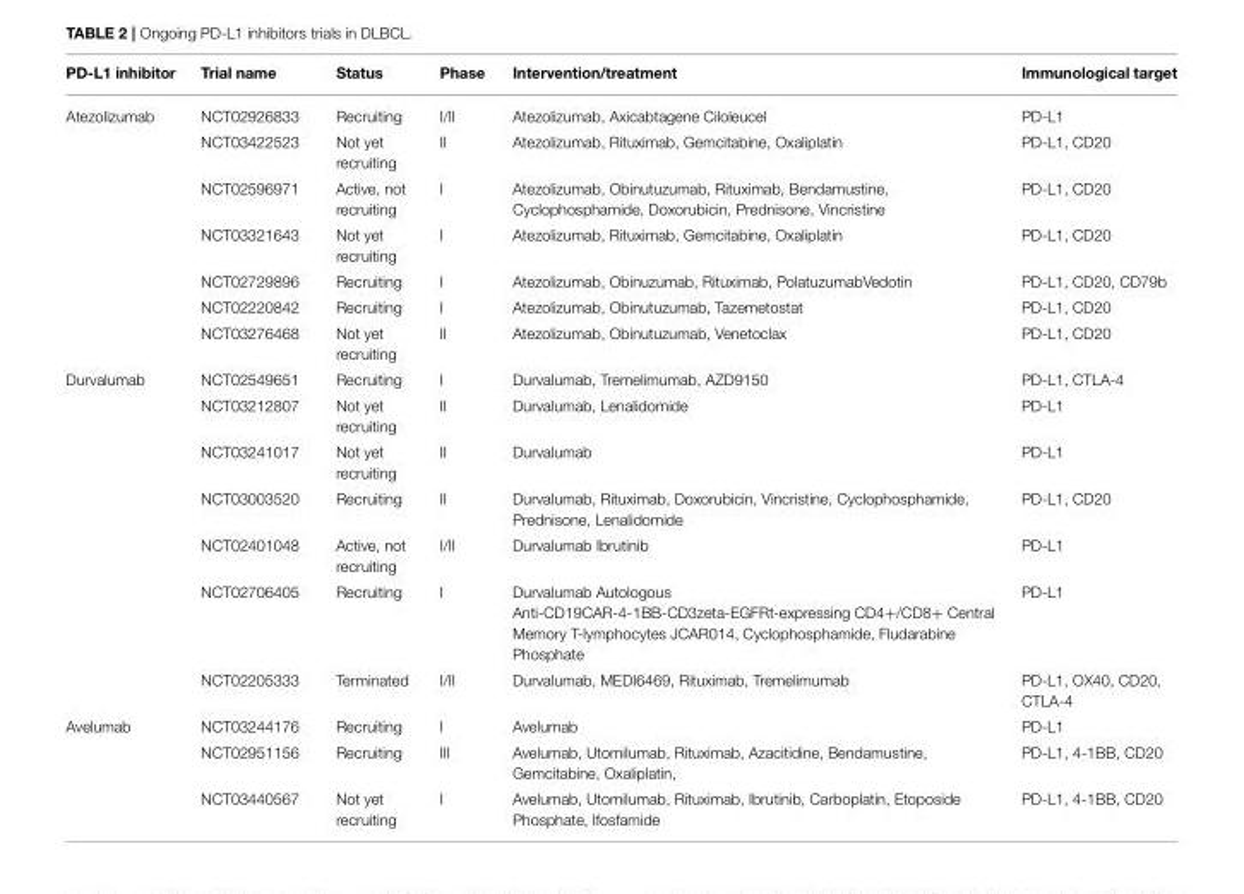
<table><thead><tr><td>PD-L1 inhibitor</td><td>Trial name</td><td>Status</td><td>Phase</td><td>Intervention/treatment</td><td>Immunological target</td></tr></thead><tbody><tr><td rowspan="7">Atezolizumab</td><td>NCT02926833</td><td>Recruiting</td><td>I/II</td><td>Atezolizumab, Axicabtagene Ciloleucel</td><td>PD-L1</td></tr><tr><td>NCT03422523</td><td>Not yet recruiting</td><td>II</td><td>Atezolizumab, Rituximab, Gemcitabine, Oxaliplatin</td><td>PD-L1, CD20</td></tr><tr><td>NCT02596971</td><td>Active, not recruiting</td><td>I</td><td>Atezolizumab, Obinutuzumab, Rituximab, Bendamustine, Cyclophosphamide, Doxorubicin, Prednisone, Vincristine</td><td>PD-L1, CD20</td></tr><tr><td>NCT03321643</td><td>Not yet recruiting</td><td>I</td><td>Atezolizumab, Rituximab, Gemcitabine, Oxaliplatin</td><td>PD-L1, CD20</td></tr><tr><td>NCT02729896</td><td>Recruiting</td><td>I</td><td>Atezolizumab, Obinuzumab, Rituximab, PolatuzumabVedotin</td><td>PD-L1, CD20, CD79b</td></tr><tr><td>NCT02220842</td><td>Recruiting</td><td>I</td><td>Atezolizumab, Obinutuzumab, Tazemetostat</td><td>PD-L1, CD20</td></tr><tr><td>NCT03276468</td><td>Not yet recruiting</td><td>II</td><td>Atezolizumab, Obinutuzumab, Venetoclax</td><td>PD-L1, CD20</td></tr><tr><td rowspan="7">Durvalumab</td><td>NCT02549651</td><td>Recruiting</td><td>I</td><td>Durvalumab, Tremelimumab, AZD9150</td><td>PD-L1, CTLA-4</td></tr><tr><td>NCT03212807</td><td>Not yet recruiting</td><td>II</td><td>Durvalumab, Lenalidomide</td><td>PD-L1</td></tr><tr><td>NCT03241017</td><td>Not yet recruiting</td><td>II</td><td>Durvalumab</td><td>PD-L1</td></tr><tr><td>NCT03003520</td><td>Recruiting</td><td>II</td><td>Durvalumab, Rituximab, Doxorubicin, Vincristine, Cyclophosphamide, Prednisone, Lenalidomide</td><td>PD-L1, CD20</td></tr><tr><td>NCT02401048</td><td>Active, not recruiting</td><td>I/II</td><td>Durvalumab Ibrutinib</td><td>PD-L1</td></tr><tr><td>NCT02706405</td><td>Recruiting</td><td>I</td><td>Durvalumab Autologous Anti-CD19CAR-4-1BB-CD3zeta-EGFRt-expressing CD4+/CD8+ Central Memory T-lymphocytes JCAR014, Cyclophosphamide, Fludarabine Phosphate</td><td>PD-L1</td></tr><tr><td>NCT02205333</td><td>Terminated</td><td>I/II</td><td>Durvalumab, MEDI6469, Rituximab, Tremelimumab</td><td>PD-L1, OX40, CD20, CTLA-4</td></tr><tr><td rowspan="3">Avelumab</td><td>NCT03244176</td><td>Recruiting</td><td>I</td><td>Avelumab</td><td>PD-L1</td></tr><tr><td>NCT02951156</td><td>Recruiting</td><td>III</td><td>Avelumab, Utomilumab, Rituximab, Azacitidine, Bendamustine, Gemcitabine, Oxaliplatin,</td><td>PD-L1, 4-1BB, CD20</td></tr><tr><td>NCT03440567</td><td>Not yet recruiting</td><td>I</td><td>Avelumab, Utomilumab, Rituximab, Ibrutinib, Carboplatin, Etoposide Phosphate, Ifosfamide</td><td>PD-L1, 4-1BB, CD20</td></tr></tbody></table>